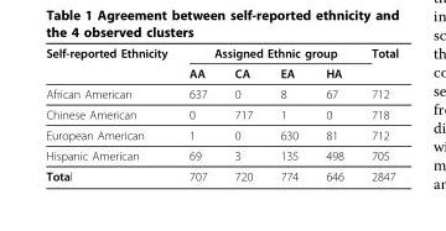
<table><thead><tr><td rowspan="2">Self-reported Ethnicity</td><td colspan="4">Assigned Ethnic group</td><td rowspan="2">Total</td></tr><tr><td>AA</td><td>CA</td><td>EA</td><td>HA</td></tr></thead><tbody><tr><td>African American</td><td>637</td><td>0</td><td>8</td><td>67</td><td>712</td></tr><tr><td>Chinese American</td><td>0</td><td>717</td><td>1</td><td>0</td><td>718</td></tr><tr><td>European American</td><td>1</td><td>0</td><td>630</td><td>81</td><td>712</td></tr><tr><td>Hispanic American</td><td>69</td><td>3</td><td>135</td><td>498</td><td>705</td></tr><tr><td>Total</td><td>707</td><td>720</td><td>774</td><td>646</td><td>2847</td></tr></tbody></table>